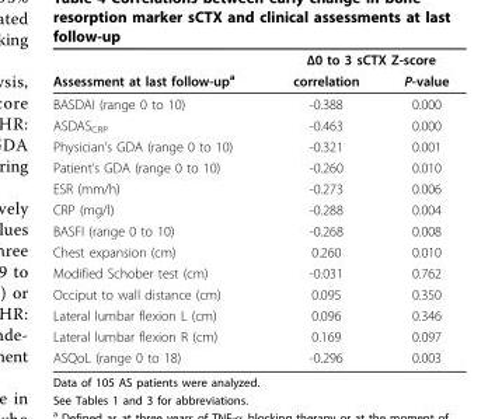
<table><thead><tr><td rowspan="2">Assessment at last follow-up<sup>a</sup></td><td colspan="2">Δ0 to 3 sCTX Z-score</td></tr><tr><td>correlation</td><td>P-value</td></tr></thead><tbody><tr><td>BASDAI (range 0 to 10)</td><td>-0.388</td><td>0.000</td></tr><tr><td>ASDAS<sub>CRP</sub></td><td>-0.463</td><td>0.000</td></tr><tr><td>Physician’s GDA (range 0 to 10)</td><td>-0.321</td><td>0.001</td></tr><tr><td>Patient’s GDA (range 0 to 10)</td><td>-0.260</td><td>0.010</td></tr><tr><td>ESR (mm/h)</td><td>-0.273</td><td>0.006</td></tr><tr><td>CRP (mg/l)</td><td>-0.288</td><td>0.004</td></tr><tr><td>BASFI (range 0 to 10)</td><td>-0.268</td><td>0.008</td></tr><tr><td>Chest expansion (cm)</td><td>0.260</td><td>0.010</td></tr><tr><td>Modified Schober test (cm)</td><td>-0.031</td><td>0.762</td></tr><tr><td>Occiput to wall distance (cm)</td><td>0.095</td><td>0.350</td></tr><tr><td>Lateral lumbar flexion L (cm)</td><td>0.096</td><td>0.346</td></tr><tr><td>Lateral lumbar flexion R (cm)</td><td>0.169</td><td>0.097</td></tr><tr><td>ASQoL (range 0 to 18)</td><td>-0.296</td><td>0.003</td></tr></tbody></table>